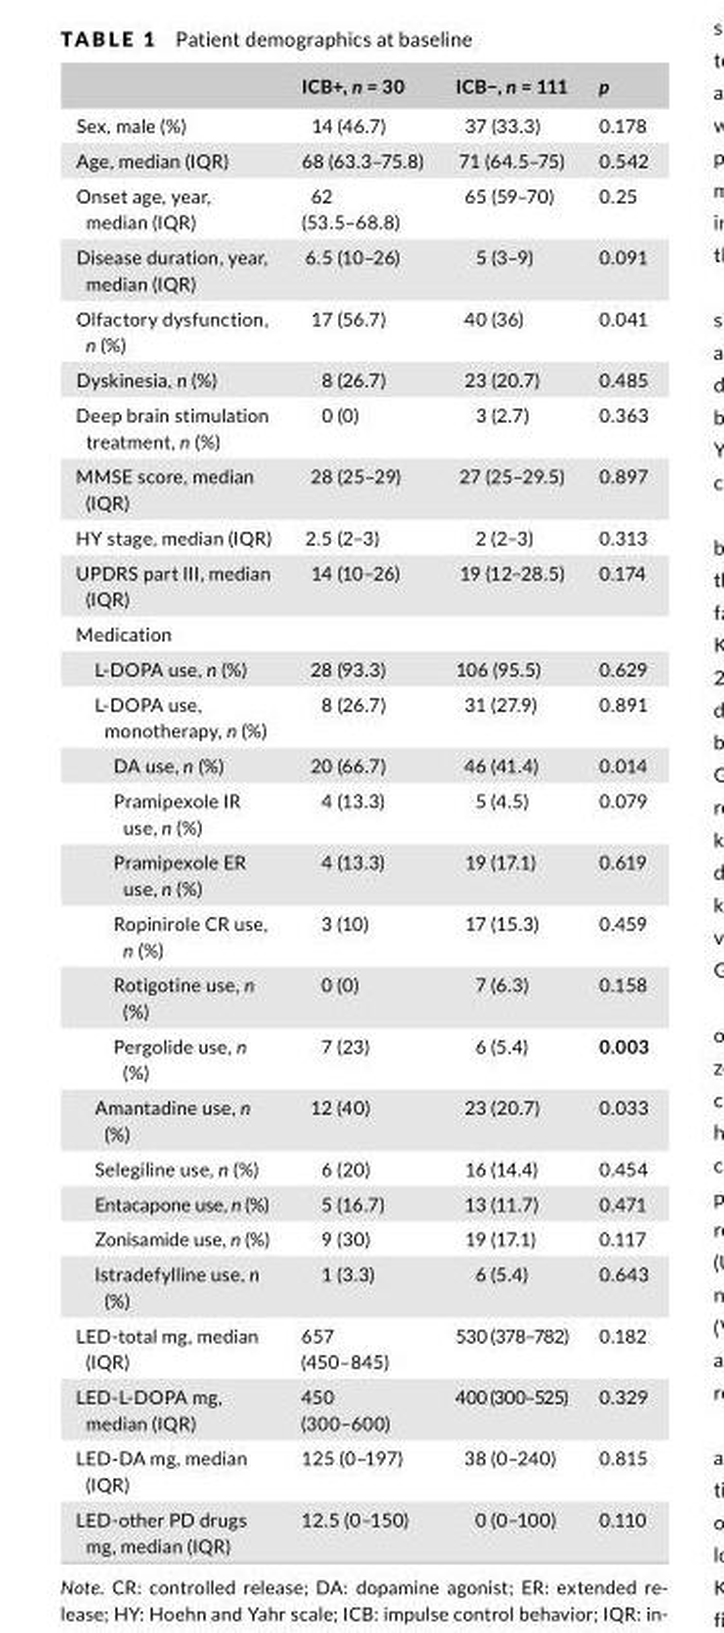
<table><thead><tr><td></td><td>ICB+, n = 30</td><td>ICB−, n = 111</td><td>p</td></tr></thead><tbody><tr><td>Sex, male (%)</td><td>14 (46.7)</td><td>37 (33.3)</td><td>0.178</td></tr><tr><td>Age, median (IQR)</td><td>68 (63.3–75.8)</td><td>71 (64.5–75)</td><td>0.542</td></tr><tr><td>Onset age, year, median (IQR)</td><td>62 (53.5–68.8)</td><td>65 (59–70)</td><td>0.25</td></tr><tr><td>Disease duration, year, median (IQR)</td><td>6.5 (10–26)</td><td>5 (3–9)</td><td>0.091</td></tr><tr><td>Olfactory dysfunction, n (%)</td><td>17 (56.7)</td><td>40 (36)</td><td>0.041</td></tr><tr><td>Dyskinesia, n (%)</td><td>8 (26.7)</td><td>23 (20.7)</td><td>0.485</td></tr><tr><td>Deep brain stimulation treatment, n (%)</td><td>0 (0)</td><td>3 (2.7)</td><td>0.363</td></tr><tr><td>MMSE score, median (IQR)</td><td>28 (25–29)</td><td>27 (25–29.5)</td><td>0.897</td></tr><tr><td>HY stage, median (IQR)</td><td>2.5 (2–3)</td><td>2 (2–3)</td><td>0.313</td></tr><tr><td>UPDRS part III, median (IQR)</td><td>14 (10–26)</td><td>19 (12–28.5)</td><td>0.174</td></tr><tr><td colspan="4">Medication</td></tr><tr><td>L- DOPA use, n (%)</td><td>28 (93.3)</td><td>106 (95.5)</td><td>0.629</td></tr><tr><td>L- DOPA use, monotherapy, n (%)</td><td>8 (26.7)</td><td>31 (27.9)</td><td>0.891</td></tr><tr><td>DA use, n (%)</td><td>20 (66.7)</td><td>46 (41.4)</td><td>0.014</td></tr><tr><td>Pramipexole IR use, n (%)</td><td>4 (13.3)</td><td>5 (4.5)</td><td>0.079</td></tr><tr><td>Pramipexole ER use, n (%)</td><td>4 (13.3)</td><td>19 (17.1)</td><td>0.619</td></tr><tr><td>Ropinirole CR use, n (%)</td><td>3 (10)</td><td>17 (15.3)</td><td>0.459</td></tr><tr><td>Rotigotine use, n (%)</td><td>0 (0)</td><td>7 (6.3)</td><td>0.158</td></tr><tr><td>Pergolide use, n (%)</td><td>7 (23)</td><td>6 (5.4)</td><td>0.003</td></tr><tr><td>Amantadine use, n (%)</td><td>12 (40)</td><td>23 (20.7)</td><td>0.033</td></tr><tr><td>Selegiline use, n (%)</td><td>6 (20)</td><td>16 (14.4)</td><td>0.454</td></tr><tr><td>Entacapone use, n (%)</td><td>5 (16.7)</td><td>13 (11.7)</td><td>0.471</td></tr><tr><td>Zonisamide use, n (%)</td><td>9 (30)</td><td>19 (17.1)</td><td>0.117</td></tr><tr><td>Istradefylline use, n (%)</td><td>1 (3.3)</td><td>6 (5.4)</td><td>0.643</td></tr><tr><td>LED- total mg, median (IQR)</td><td>657 (450–845)</td><td>530 (378–782)</td><td>0.182</td></tr><tr><td>LED- L- DOPA mg, median (IQR)</td><td>450 (300–600)</td><td>400 (300–525)</td><td>0.329</td></tr><tr><td>LED- DA mg, median (IQR)</td><td>125 (0–197)</td><td>38 (0–240)</td><td>0.815</td></tr><tr><td>LED- other PD drugs mg, median (IQR)</td><td>12.5 (0–150)</td><td>0 (0–100)</td><td>0.110</td></tr></tbody></table>